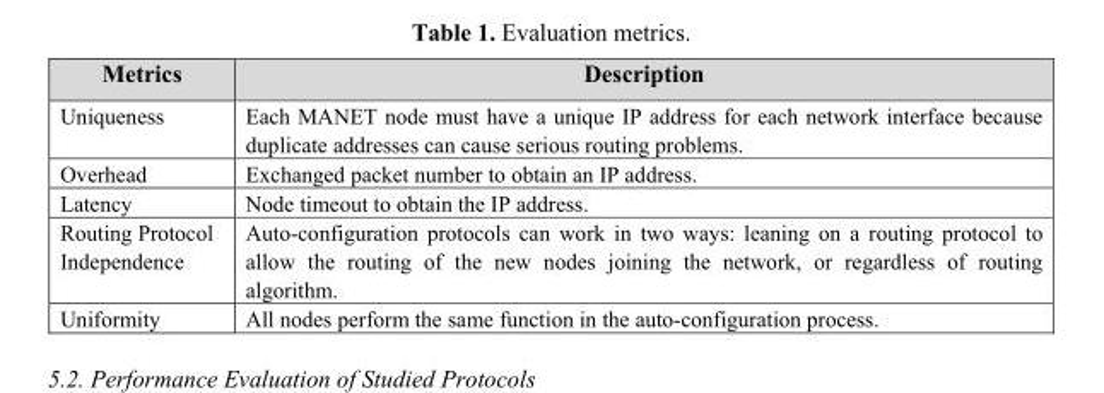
<table><thead><tr><td>Metrics</td><td>Description</td></tr></thead><tbody><tr><td>Uniqueness</td><td>Each MANET node must have a unique IP address for each network interface because duplicate addresses can cause serious routing problems.</td></tr><tr><td>Overhead</td><td>Exchanged packet number to obtain an IP address.</td></tr><tr><td>Latency</td><td>Node timeout to obtain the IP address.</td></tr><tr><td>Routing Protocol Independence</td><td>Auto-configuration protocols can work in two ways: leaning on a routing protocol to allow the routing of the new nodes joining the network, or regardless of routing algorithm.</td></tr><tr><td>Uniformity</td><td>All nodes perform the same function in the auto-configuration process.</td></tr></tbody></table>